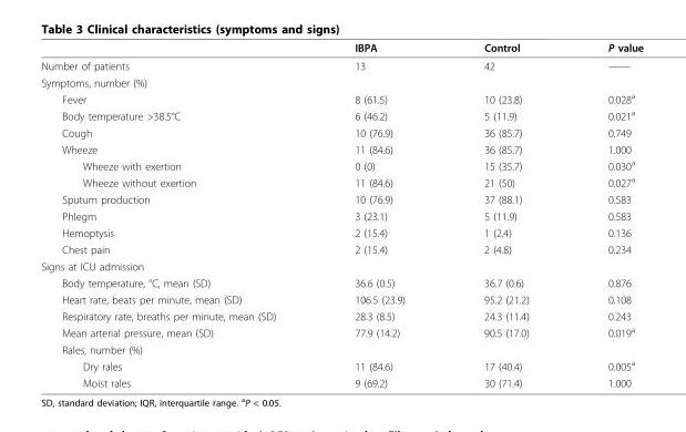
<table><thead><tr><td></td><td>IBPA</td><td>Control</td><td>P value</td></tr></thead><tbody><tr><td>Number of patients</td><td>13</td><td>42</td><td>——</td></tr><tr><td colspan="4">Symptoms, number (%)</td></tr><tr><td>Fever</td><td>8 (61.5)</td><td>10 (23.8)</td><td>0.028<sup>a</sup></td></tr><tr><td>Body temperature &gt;38.5°C</td><td>6 (46.2)</td><td>5 (11.9)</td><td>0.021<sup>a</sup></td></tr><tr><td>Cough</td><td>10 (76.9)</td><td>36 (85.7)</td><td>0.749</td></tr><tr><td>Wheeze</td><td>11 (84.6)</td><td>36 (85.7)</td><td>1.000</td></tr><tr><td>Wheeze with exertion</td><td>0 (0)</td><td>15 (35.7)</td><td>0.030<sup>a</sup></td></tr><tr><td>Wheeze without exertion</td><td>11 (84.6)</td><td>21 (50)</td><td>0.027<sup>a</sup></td></tr><tr><td>Sputum production</td><td>10 (76.9)</td><td>37 (88.1)</td><td>0.583</td></tr><tr><td>Phlegm</td><td>3 (23.1)</td><td>5 (11.9)</td><td>0.583</td></tr><tr><td>Hemoptysis</td><td>2 (15.4)</td><td>1 (2.4)</td><td>0.136</td></tr><tr><td>Chest pain</td><td>2 (15.4)</td><td>2 (4.8)</td><td>0.234</td></tr><tr><td colspan="4">Signs at ICU admission</td></tr><tr><td>Body temperature, °C, mean (SD)</td><td>36.6 (0.5)</td><td>36.7 (0.6)</td><td>0.876</td></tr><tr><td>Heart rate, beats per minute, mean (SD)</td><td>106.5 (23.9)</td><td>95.2 (21.2)</td><td>0.108</td></tr><tr><td>Respiratory rate, breaths per minute, mean (SD)</td><td>28.3 (8.5)</td><td>24.3 (11.4)</td><td>0.243</td></tr><tr><td>Mean arterial pressure, mean (SD)</td><td>77.9 (14.2)</td><td>90.5 (17.0)</td><td>0.019<sup>a</sup></td></tr><tr><td colspan="4">Rales, number (%)</td></tr><tr><td>Dry rales</td><td>11 (84.6)</td><td>17 (40.4)</td><td>0.005<sup>a</sup></td></tr><tr><td>Moist rales</td><td>9 (69.2)</td><td>30 (71.4)</td><td>1.000</td></tr></tbody></table>